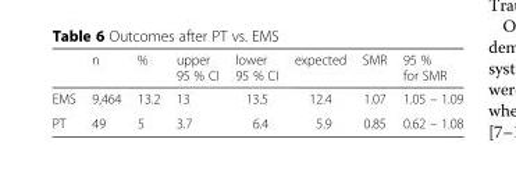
<table><thead><tr><td></td><td>n</td><td>%</td><td>upper 95 % CI</td><td>lower 95 % CI</td><td>expected</td><td>SMR</td><td>95 % for SMR</td></tr></thead><tbody><tr><td>EMS</td><td>9,464</td><td>13.2</td><td>13</td><td>13.5</td><td>12.4</td><td>1.07</td><td>1.05 – 1.09</td></tr><tr><td>PT</td><td>49</td><td>5</td><td>3.7</td><td>6.4</td><td>5.9</td><td>0.85</td><td>0.62 – 1.08</td></tr></tbody></table>